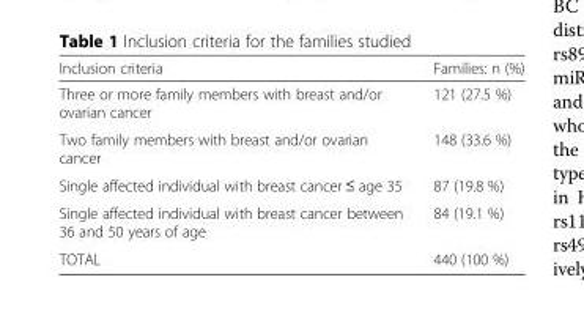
<table><thead><tr><td>Inclusion criteria</td><td>Families: n (%)</td></tr></thead><tbody><tr><td>Three or more family members with breast and/or ovarian cancer</td><td>121 (27.5 %)</td></tr><tr><td>Two family members with breast and/or ovarian cancer</td><td>148 (33.6 %)</td></tr><tr><td>Single affected individual with breast cancer ≤ age 35</td><td>87 (19.8 %)</td></tr><tr><td>Single affected individual with breast cancer between 36 and 50 years of age</td><td>84 (19.1 %)</td></tr><tr><td>TOTAL</td><td>440 (100 %)</td></tr></tbody></table>